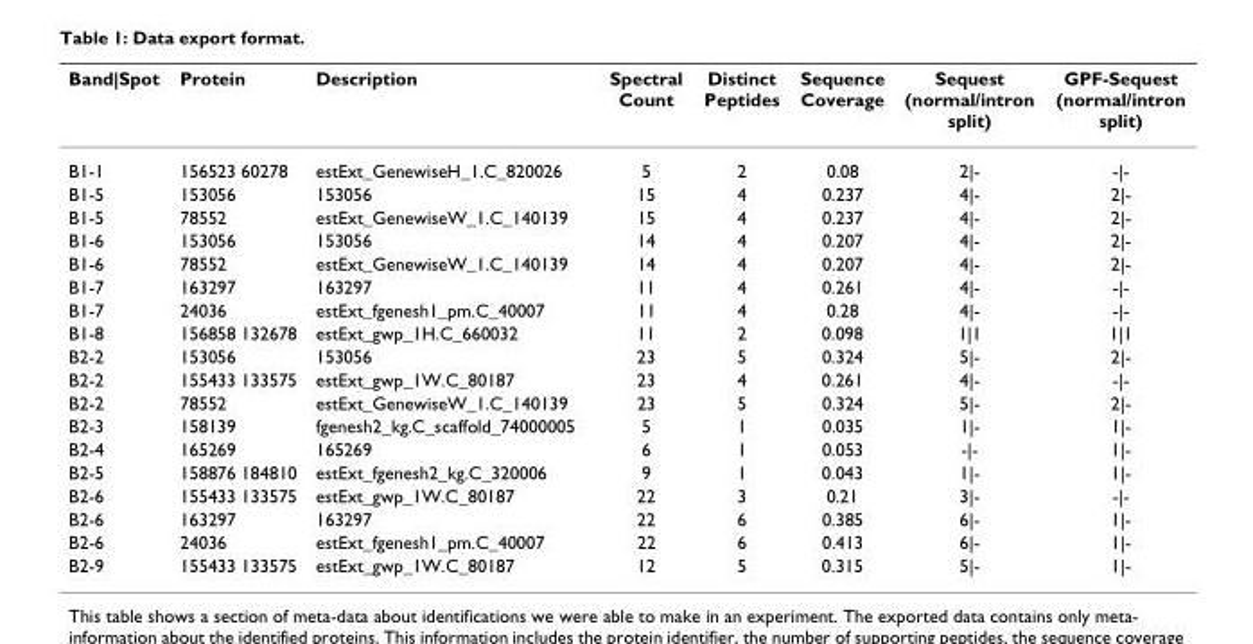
<table><thead><tr><td>Band|Spot</td><td>Protein</td><td>Description</td><td>Spectral Count</td><td>Distinct Peptides</td><td>Sequence Coverage</td><td>Sequest (normal/intron split)</td><td>GPF-Sequest (normal/intron split)</td></tr></thead><tbody><tr><td>B1-1</td><td>156523 60278</td><td>estExt_GenewiseH_1.C_820026</td><td>5</td><td>2</td><td>0.08</td><td>2|-</td><td>-|-</td></tr><tr><td>B1-5</td><td>153056</td><td>153056</td><td>15</td><td>4</td><td>0.237</td><td>4|-</td><td>2|-</td></tr><tr><td>B1-5</td><td>78552</td><td>estExt_GenewiseW_1.C_140139</td><td>15</td><td>4</td><td>0.237</td><td>4|-</td><td>2|-</td></tr><tr><td>B1-6</td><td>153056</td><td>153056</td><td>14</td><td>4</td><td>0.207</td><td>4|-</td><td>2|-</td></tr><tr><td>B1-6</td><td>78552</td><td>estExt_GenewiseW_1.C_140139</td><td>14</td><td>4</td><td>0.207</td><td>4|-</td><td>2|-</td></tr><tr><td>B1-7</td><td>163297</td><td>163297</td><td>11</td><td>4</td><td>0.261</td><td>4|-</td><td>-|-</td></tr><tr><td>B1-7</td><td>24036</td><td>estExt_fgenesh1_pm.C_40007</td><td>11</td><td>4</td><td>0.28</td><td>4|-</td><td>-|-</td></tr><tr><td>B1-8</td><td>156858 132678</td><td>estExt_gwp_1H.C_660032</td><td>11</td><td>2</td><td>0.098</td><td>1|1</td><td>1|1</td></tr><tr><td>B2-2</td><td>153056</td><td>153056</td><td>23</td><td>5</td><td>0.324</td><td>5|-</td><td>2|-</td></tr><tr><td>B2-2</td><td>155433 133575</td><td>estExt_gwp_1W.C_80187</td><td>23</td><td>4</td><td>0.261</td><td>4|-</td><td>-|-</td></tr><tr><td>B2-2</td><td>78552</td><td>estExt_GenewiseW_1.C_140139</td><td>23</td><td>5</td><td>0.324</td><td>5|-</td><td>2|-</td></tr><tr><td>B2-3</td><td>158139</td><td>fgenesh2_kg.C_scaffold_74000005</td><td>5</td><td>1</td><td>0.035</td><td>1|-</td><td>1|-</td></tr><tr><td>B2-4</td><td>165269</td><td>165269</td><td>6</td><td>1</td><td>0.053</td><td>-|-</td><td>1|-</td></tr><tr><td>B2-5</td><td>158876 184810</td><td>estExt_fgenesh2_kg.C_320006</td><td>9</td><td>1</td><td>0.043</td><td>1|-</td><td>1|-</td></tr><tr><td>B2-6</td><td>155433 133575</td><td>estExt_gwp_1W.C_80187</td><td>22</td><td>3</td><td>0.21</td><td>3|-</td><td>-|-</td></tr><tr><td>B2-6</td><td>163297</td><td>163297</td><td>22</td><td>6</td><td>0.385</td><td>6|-</td><td>1|-</td></tr><tr><td>B2-6</td><td>24036</td><td>estExt_fgenesh1_pm.C_40007</td><td>22</td><td>6</td><td>0.413</td><td>6|-</td><td>1|-</td></tr><tr><td>B2-9</td><td>155433 133575</td><td>estExt_gwp_1W.C_80187</td><td>12</td><td>5</td><td>0.315</td><td>5|-</td><td>1|-</td></tr></tbody></table>